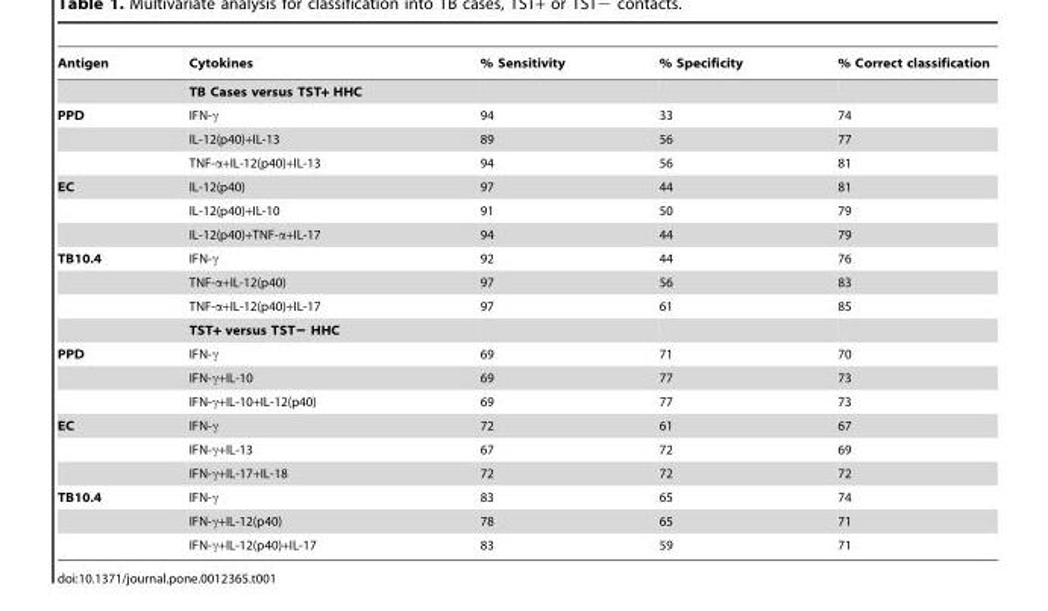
<table><thead><tr><td>Antigen</td><td>Cytokines</td><td>% Sensitivity</td><td>% Specificity</td><td>% Correct classification</td></tr></thead><tbody><tr><td></td><td>TB Cases versus TST+ HHC</td><td></td><td></td><td></td></tr><tr><td rowspan="3">PPD</td><td>IFN-γ</td><td>94</td><td>33</td><td>74</td></tr><tr><td>IL-12(p40)+IL-13</td><td>89</td><td>56</td><td>77</td></tr><tr><td>TNF-α+IL-12(p40)+IL-13</td><td>94</td><td>56</td><td>81</td></tr><tr><td rowspan="3">EC</td><td>IL-12(p40)</td><td>97</td><td>44</td><td>81</td></tr><tr><td>IL-12(p40)+IL-10</td><td>91</td><td>50</td><td>79</td></tr><tr><td>IL-12(p40)+TNF-α+IL-17</td><td>94</td><td>44</td><td>79</td></tr><tr><td rowspan="4">TB10.4</td><td>IFN-γ</td><td>92</td><td>44</td><td>76</td></tr><tr><td>TNF-α+IL-12(p40)</td><td>97</td><td>56</td><td>83</td></tr><tr><td>TNF-α+IL-12(p40)+IL-17</td><td>97</td><td>61</td><td>85</td></tr><tr><td>TST+ versus TST− HHC</td><td></td><td></td><td></td></tr><tr><td rowspan="3">PPD</td><td>IFN-γ</td><td>69</td><td>71</td><td>70</td></tr><tr><td>IFN-γ+IL-10</td><td>69</td><td>77</td><td>73</td></tr><tr><td>IFN-γ+IL-10+IL-12(p40)</td><td>69</td><td>77</td><td>73</td></tr><tr><td rowspan="3">EC</td><td>IFN-γ</td><td>72</td><td>61</td><td>67</td></tr><tr><td>IFN-γ+IL-13</td><td>67</td><td>72</td><td>69</td></tr><tr><td>IFN-γ+IL-17+IL-18</td><td>72</td><td>72</td><td>72</td></tr><tr><td rowspan="3">TB10.4</td><td>IFN-γ</td><td>83</td><td>65</td><td>74</td></tr><tr><td>IFN-γ+IL-12(p40)</td><td>78</td><td>65</td><td>71</td></tr><tr><td>IFN-γ+IL-12(p40)+IL-17</td><td>83</td><td>59</td><td>71</td></tr></tbody></table>